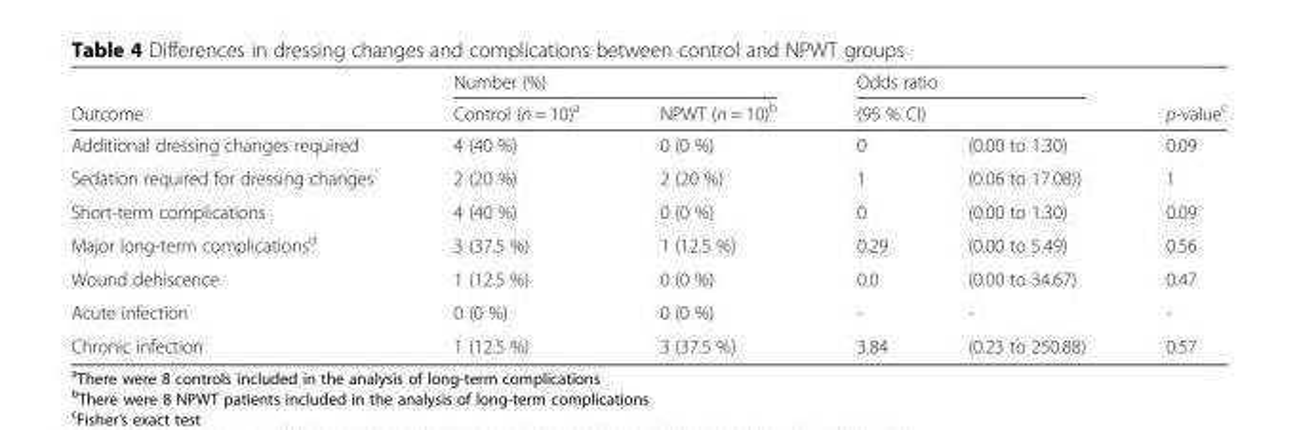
<table><thead><tr><td rowspan="3">Outcome Additional dressing changes required</td><td colspan="2">Number (%)</td><td rowspan="2" colspan="2">Odds ratio (95 % CI)</td><td rowspan="3">p-value<sup>c</sup> 0.09</td></tr><tr><td rowspan="2">Control (n = 10)<sup>a</sup> 4 (40 %)</td><td rowspan="2">NPWT (n = 10)<sup>b</sup> 0 (0 %)</td></tr><tr><td>0</td><td>(0.00 to 1.30)</td></tr></thead><tbody><tr><td>Sedation required for dressing changes</td><td>2 (20 %)</td><td>2 (20 %)</td><td>1</td><td>(0.06 to 17.08))</td><td>1</td></tr><tr><td>Short-term complications</td><td>4 (40 %)</td><td>0 (0 %)</td><td>0</td><td>(0.00 to 1.30)</td><td>0.09</td></tr><tr><td>Major long-term complications<sup>d</sup></td><td>3 (37.5 %)</td><td>1 (12.5 %)</td><td>0.29</td><td>(0.00 to 5.49)</td><td>0.56</td></tr><tr><td>Wound dehiscence</td><td>1 (12.5 %)</td><td>0 (0 %)</td><td>0.0</td><td>(0.00 to 34.67)</td><td>0.47</td></tr><tr><td>Acute infection</td><td>0 (0 %)</td><td>0 (0 %)</td><td>-</td><td>-</td><td>-</td></tr><tr><td>Chronic infection</td><td>1 (12.5 %)</td><td>3 (37.5 %)</td><td>3.84</td><td>(0.23 to 250.88)</td><td>0.57</td></tr></tbody></table>